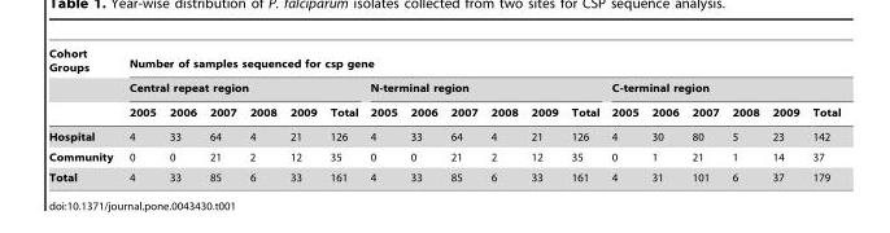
<table><thead><tr><td rowspan="3">Cohort Groups</td><td colspan="18">Number of samples sequenced for csp gene</td></tr><tr><td colspan="6">Central repeat region</td><td colspan="6">N-terminal region</td><td colspan="6">C-terminal region</td></tr><tr><td>2005</td><td>2006</td><td>2007</td><td>2008</td><td>2009</td><td>Total</td><td>2005</td><td>2006</td><td>2007</td><td>2008</td><td>2009</td><td>Total</td><td>2005</td><td>2006</td><td>2007</td><td>2008</td><td>2009</td><td>Total</td></tr></thead><tbody><tr><td>Hospital</td><td>4</td><td>33</td><td>64</td><td>4</td><td>21</td><td>126</td><td>4</td><td>33</td><td>64</td><td>4</td><td>21</td><td>126</td><td>4</td><td>30</td><td>80</td><td>5</td><td>23</td><td>142</td></tr><tr><td>Community</td><td>0</td><td>0</td><td>21</td><td>2</td><td>12</td><td>35</td><td>0</td><td>0</td><td>21</td><td>2</td><td>12</td><td>35</td><td>0</td><td>1</td><td>21</td><td>1</td><td>14</td><td>37</td></tr><tr><td>Total</td><td>4</td><td>33</td><td>85</td><td>6</td><td>33</td><td>161</td><td>4</td><td>33</td><td>85</td><td>6</td><td>33</td><td>161</td><td>4</td><td>31</td><td>101</td><td>6</td><td>37</td><td>179</td></tr></tbody></table>